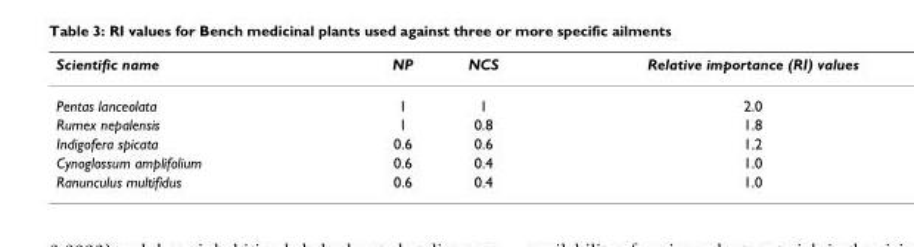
<table><thead><tr><td>Scientific name</td><td>NP</td><td>NCS</td><td>Relative importance (RI) values</td></tr></thead><tbody><tr><td>Pentas lanceolata</td><td>1</td><td>1</td><td>2.0</td></tr><tr><td>Rumex nepalensis</td><td>1</td><td>0.8</td><td>1.8</td></tr><tr><td>Indigofera spicata</td><td>0.6</td><td>0.6</td><td>1.2</td></tr><tr><td>Cynoglossum amplifolium</td><td>0.6</td><td>0.4</td><td>1.0</td></tr><tr><td>Ranunculus multifidus</td><td>0.6</td><td>0.4</td><td>1.0</td></tr></tbody></table>